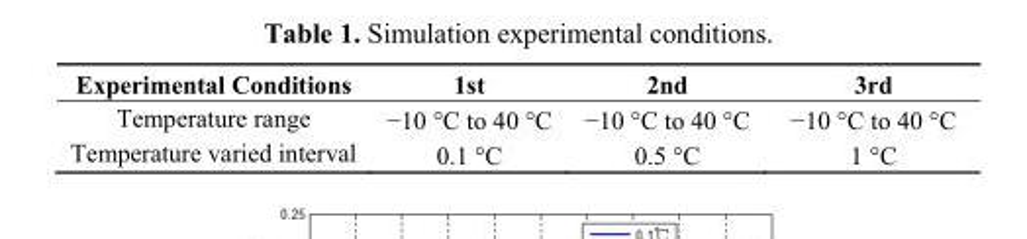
<table><thead><tr><td>Experimental Conditions</td><td>1st</td><td>2nd</td><td>3rd</td></tr></thead><tbody><tr><td>Temperature range</td><td>−10 °C to 40 °C</td><td>−10 °C to 40 °C</td><td>−10 °C to 40 °C</td></tr><tr><td>Temperature varied interval</td><td>0.1 °C</td><td>0.5 °C</td><td>1 °C</td></tr></tbody></table>